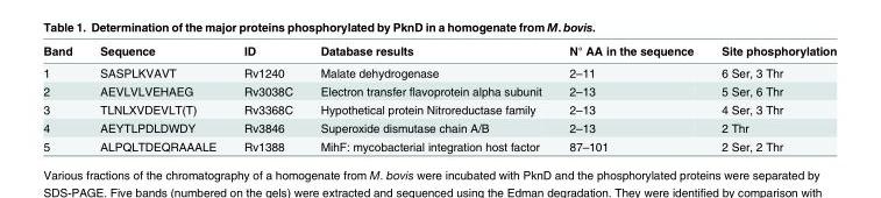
<table><thead><tr><td>Band</td><td>Sequence</td><td>ID</td><td>Database results</td><td>N° AA in the sequence</td><td>Site phosphorylation</td></tr></thead><tbody><tr><td>1</td><td>SASPLKVAVT</td><td>Rv1240</td><td>Malate dehydrogenase</td><td>2–11</td><td>6 Ser, 3 Thr</td></tr><tr><td>2</td><td>AEVLVLVEHAEG</td><td>Rv3038C</td><td>Electron transfer flavoprotein alpha subunit</td><td>2–13</td><td>5 Ser, 6 Thr</td></tr><tr><td>3</td><td>TLNLXVDEVLT(T)</td><td>Rv3368C</td><td>Hypothetical protein Nitroreductase family</td><td>2–13</td><td>4 Ser, 3 Thr</td></tr><tr><td>4</td><td>AEYTLPDLDWDY</td><td>Rv3846</td><td>Superoxide dismutase chain A/B</td><td>2–13</td><td>2 Thr</td></tr><tr><td>5</td><td>ALPQLTDEQRAAALE</td><td>Rv1388</td><td>MihF: mycobacterial integration host factor</td><td>87–101</td><td>2 Ser, 2 Thr</td></tr></tbody></table>